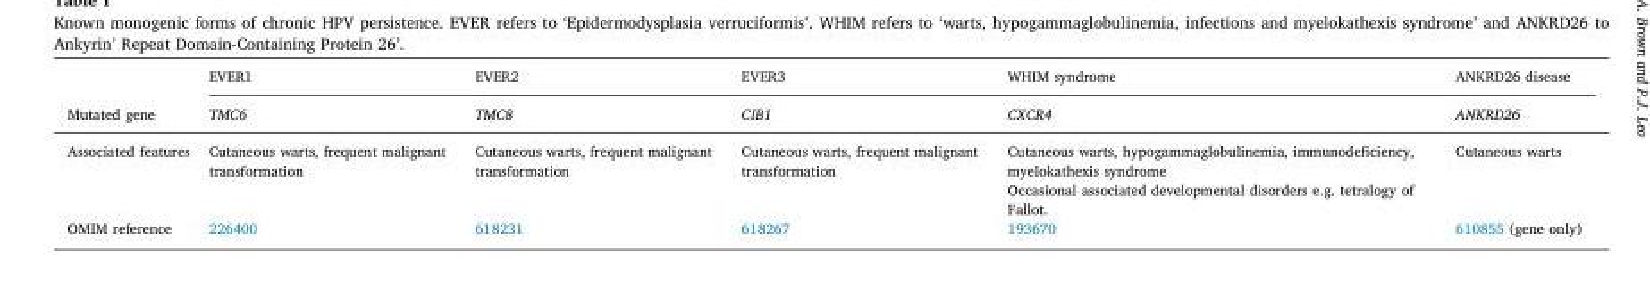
<table><thead><tr><td rowspan="2">Mutated gene</td><td rowspan="2">EVER1 TMC6</td><td rowspan="2">EVER2 TMC8</td><td rowspan="2">EVER3 CIB1</td><td rowspan="2">WHIM syndrome CXCR4</td><td rowspan="2">ANKRD26 disease ANKRD26</td></tr><tr></tr></thead><tbody><tr><td>Associated features</td><td>Cutaneous warts, frequent malignant transformation</td><td>Cutaneous warts, frequent malignant transformation</td><td>Cutaneous warts, frequent malignant transformation</td><td>Cutaneous warts, hypogammaglobulinemia, immunodeficiency, myelokathexis syndrome Occasional associated developmental disorders e.g. tetralogy of Fallot.</td><td>Cutaneous warts</td></tr><tr><td>OMIM reference</td><td>226400</td><td>618231</td><td>618267</td><td>193670</td><td>610855 (gene only)</td></tr></tbody></table>